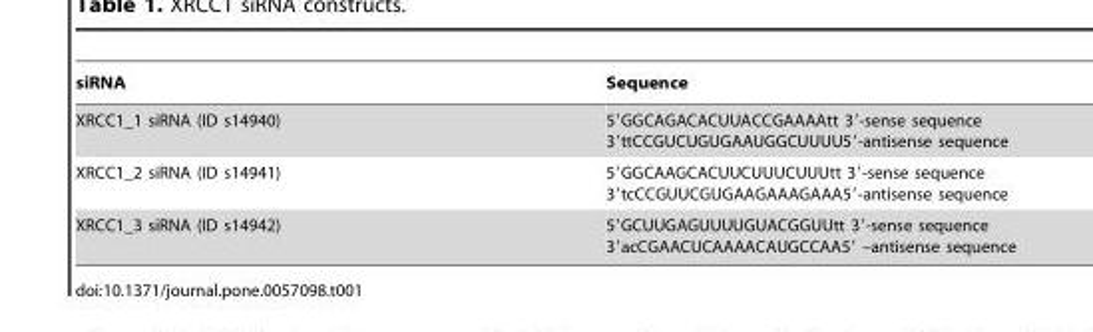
<table><thead><tr><td>siRNA</td><td>Sequence</td></tr></thead><tbody><tr><td>XRCC1_1 siRNA (ID s14940)</td><td>5′GGCAGACACUUACCGAAAAtt 3′-sense sequence 3′ttCCGUCUGUGAAUGGCUUUU5′-antisense sequence</td></tr><tr><td>XRCC1_2 siRNA (ID s14941)</td><td>5′GGCAAGCACUUCUUUCUUUtt 3′-sense sequence 3′tcCCGUUCGUGAAGAAAGAAA5′-antisense sequence</td></tr><tr><td>XRCC1_3 siRNA (ID s14942)</td><td>5′GCUUGAGUUUUGUACGGUUtt 3′-sense sequence 3′acCGAACUCAAAACAUGCCAA5′ –antisense sequence</td></tr></tbody></table>